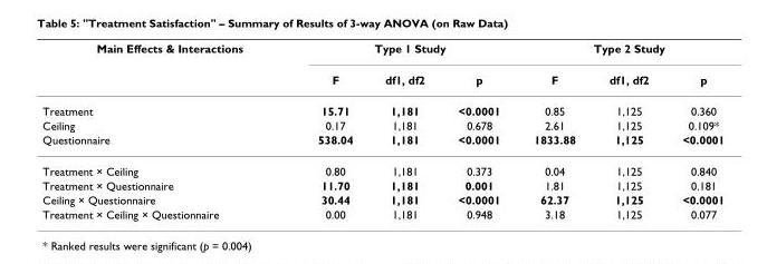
<table><thead><tr><td rowspan="2">Main Effects &amp; Interactions</td><td colspan="3">Type 1 Study</td><td colspan="3">Type 2 Study</td></tr><tr><td>F</td><td>df1, df2</td><td>p</td><td>F</td><td>df1, df2</td><td>p</td></tr></thead><tbody><tr><td>Treatment</td><td>15.71</td><td>1,181</td><td>&lt;0.0001</td><td>0.85</td><td>1,125</td><td>0.360</td></tr><tr><td>Ceiling</td><td>0.17</td><td>1,181</td><td>0.678</td><td>2.61</td><td>1,125</td><td>0.109*</td></tr><tr><td>Questionnaire</td><td>538.04</td><td>1,181</td><td>&lt;0.0001</td><td>1833.88</td><td>1,125</td><td>&lt;0.0001</td></tr><tr><td>Treatment × Ceiling</td><td>0.80</td><td>1,181</td><td>0.373</td><td>0.04</td><td>1,125</td><td>0.840</td></tr><tr><td>Treatment × Questionnaire</td><td>11.70</td><td>1,181</td><td>0.001</td><td>1.81</td><td>1,125</td><td>0.181</td></tr><tr><td>Ceiling × Questionnaire</td><td>30.44</td><td>1,181</td><td>&lt;0.0001</td><td>62.37</td><td>1,125</td><td>&lt;0.0001</td></tr><tr><td>Treatment × Ceiling × Questionnaire</td><td>0.00</td><td>1,181</td><td>0.948</td><td>3.18</td><td>1,125</td><td>0.077</td></tr></tbody></table>